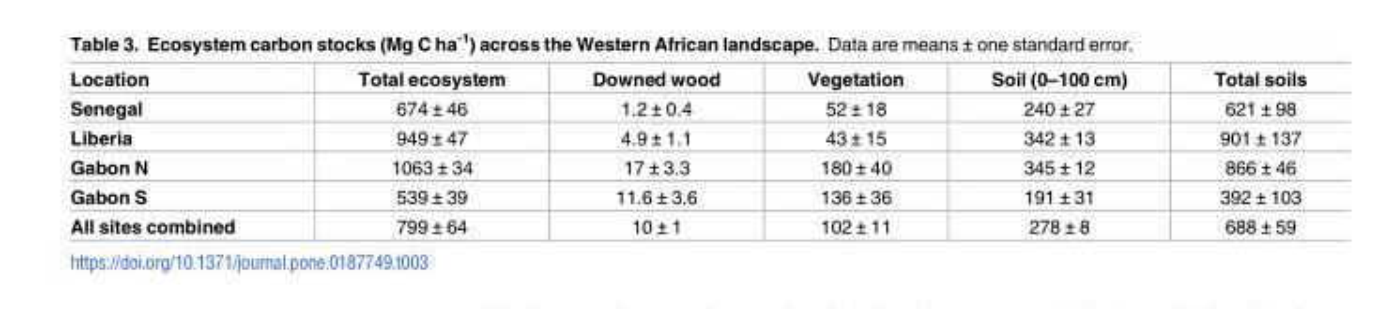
<table><thead><tr><td>Location</td><td>Total ecosystem</td><td>Downed wood</td><td>Vegetation</td><td>Soil (0–100 cm)</td><td>Total soils</td></tr></thead><tbody><tr><td>Senegal</td><td>674 ± 46</td><td>1.2 ± 0.4</td><td>52 ± 18</td><td>240 ± 27</td><td>621 ± 98</td></tr><tr><td>Liberia</td><td>949 ± 47</td><td>4.9 ± 1.1</td><td>43 ± 15</td><td>342 ± 13</td><td>901 ± 137</td></tr><tr><td>Gabon N</td><td>1063 ± 34</td><td>17 ± 3.3</td><td>180 ± 40</td><td>345 ± 12</td><td>866 ± 46</td></tr><tr><td>Gabon S</td><td>539 ± 39</td><td>11.6 ± 3.6</td><td>136 ± 36</td><td>191 ± 31</td><td>392 ± 103</td></tr><tr><td>All sites combined</td><td>799 ± 64</td><td>10 ± 1</td><td>102 ± 11</td><td>278 ± 8</td><td>688 ± 59</td></tr></tbody></table>